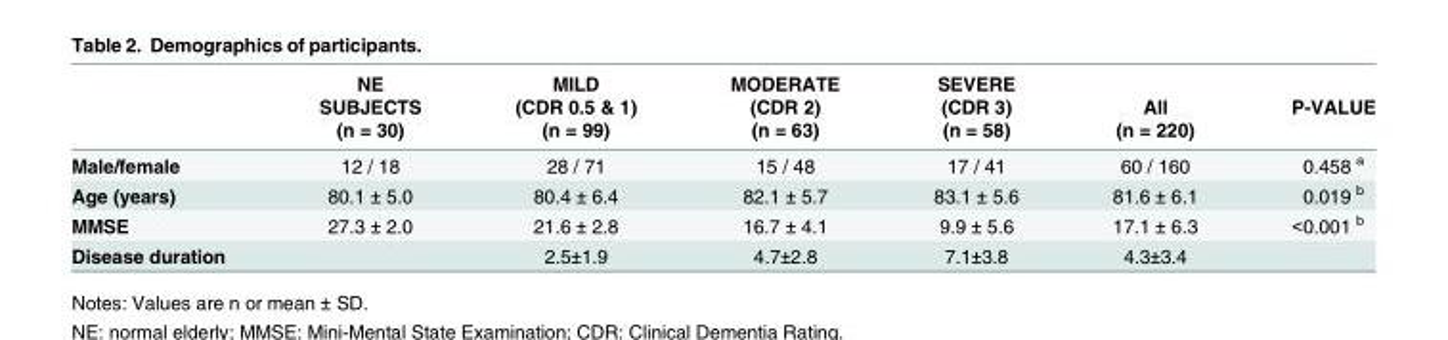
<table><thead><tr><td rowspan="3"></td><td rowspan="3">NE SUBJECTS (n = 30)</td><td rowspan="3">MILD (CDR 0.5 &amp; 1) (n = 99)</td><td rowspan="3">MODERATE (CDR 2) (n = 63)</td><td rowspan="3">SEVERE (CDR 3) (n = 58)</td><td rowspan="3">All (n = 220)</td><td rowspan="3">P-VALUE</td></tr><tr></tr><tr></tr></thead><tbody><tr><td>Male/female</td><td>12 / 18</td><td>28 / 71</td><td>15 / 48</td><td>17 / 41</td><td>60 / 160</td><td>0.458 <sup>a</sup></td></tr><tr><td>Age (years)</td><td>80.1 ± 5.0</td><td>80.4 ± 6.4</td><td>82.1 ± 5.7</td><td>83.1 ± 5.6</td><td>81.6 ± 6.1</td><td>0.019 <sup>b</sup></td></tr><tr><td>MMSE</td><td>27.3 ± 2.0</td><td>21.6 ± 2.8</td><td>16.7 ± 4.1</td><td>9.9 ± 5.6</td><td>17.1 ± 6.3</td><td>&lt;0.001 <sup>b</sup></td></tr><tr><td>Disease duration</td><td></td><td>2.5±1.9</td><td>4.7±2.8</td><td>7.1±3.8</td><td>4.3±3.4</td><td></td></tr></tbody></table>